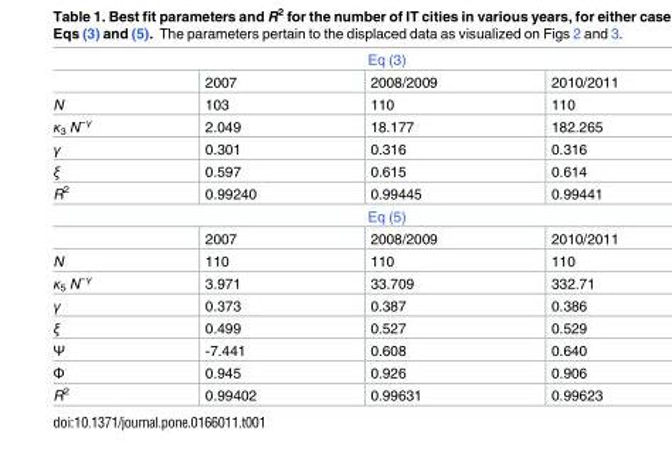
<table><tbody><tr><td colspan="4">Eq (3)</td></tr><tr><td></td><td>2007</td><td>2008/2009</td><td>2010/2011</td></tr><tr><td>N</td><td>103</td><td>110</td><td>110</td></tr><tr><td>κ<sub>3</sub> N<sup>−γ</sup></td><td>2.049</td><td>18.177</td><td>182.265</td></tr><tr><td>γ</td><td>0.301</td><td>0.316</td><td>0.316</td></tr><tr><td>ξ</td><td>0.597</td><td>0.615</td><td>0.614</td></tr><tr><td>R<sup>2</sup></td><td>0.99240</td><td>0.99445</td><td>0.99441</td></tr><tr><td colspan="4">Eq (5)</td></tr><tr><td></td><td>2007</td><td>2008/2009</td><td>2010/2011</td></tr><tr><td>N</td><td>110</td><td>110</td><td>110</td></tr><tr><td>κ<sub>5</sub> N<sup>−γ</sup></td><td>3.971</td><td>33.709</td><td>332.71</td></tr><tr><td>γ</td><td>0.373</td><td>0.387</td><td>0.386</td></tr><tr><td>ξ</td><td>0.499</td><td>0.527</td><td>0.529</td></tr><tr><td>Ψ</td><td>-7.441</td><td>0.608</td><td>0.640</td></tr><tr><td>Φ</td><td>0.945</td><td>0.926</td><td>0.906</td></tr><tr><td>R<sup>2</sup></td><td>0.99402</td><td>0.99631</td><td>0.99623</td></tr></tbody></table>